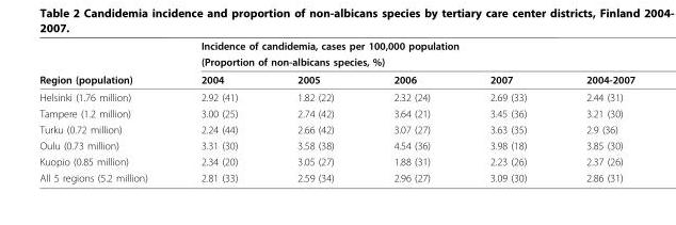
<table><thead><tr><td rowspan="3">Region (population)</td><td rowspan="2" colspan="5">Incidence of candidemia, cases per 100,000 population (Proportion of non-albicans species, %)</td></tr><tr></tr><tr><td>2004</td><td>2005</td><td>2006</td><td>2007</td><td>2004-2007</td></tr></thead><tbody><tr><td>Helsinki (1.76 million)</td><td>2.92 (41)</td><td>1.82 (22)</td><td>2.32 (24)</td><td>2.69 (33)</td><td>2.44 (31)</td></tr><tr><td>Tampere (1.2 million)</td><td>3.00 (25)</td><td>2.74 (42)</td><td>3.64 (21)</td><td>3.45 (36)</td><td>3.21 (30)</td></tr><tr><td>Turku (0.72 million)</td><td>2.24 (44)</td><td>2.66 (42)</td><td>3.07 (27)</td><td>3.63 (35)</td><td>2.9 (36)</td></tr><tr><td>Oulu (0.73 million)</td><td>3.31 (30)</td><td>3.58 (38)</td><td>4.54 (36)</td><td>3.98 (18)</td><td>3.85 (30)</td></tr><tr><td>Kuopio (0.85 million)</td><td>2.34 (20)</td><td>3.05 (27)</td><td>1.88 (31)</td><td>2.23 (26)</td><td>2.37 (26)</td></tr><tr><td>All 5 regions (5.2 million)</td><td>2.81 (33)</td><td>2.59 (34)</td><td>2.96 (27)</td><td>3.09 (30)</td><td>2.86 (31)</td></tr></tbody></table>